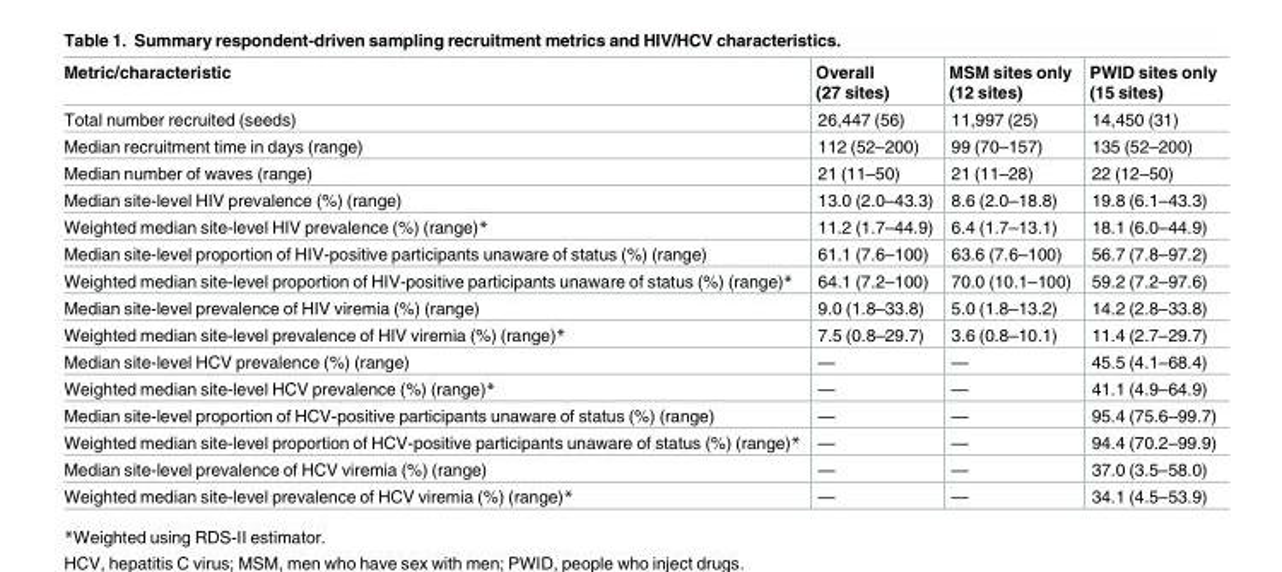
<table><thead><tr><td>Metric/characteristic</td><td>Overall (27 sites)</td><td>MSM sites only (12 sites)</td><td>PWID sites only (15 sites)</td></tr></thead><tbody><tr><td>Total number recruited (seeds)</td><td>26,447 (56)</td><td>11,997 (25)</td><td>14,450 (31)</td></tr><tr><td>Median recruitment time in days (range)</td><td>112 (52–200)</td><td>99 (70–157)</td><td>135 (52–200)</td></tr><tr><td>Median number of waves (range)</td><td>21 (11–50)</td><td>21 (11–28)</td><td>22 (12–50)</td></tr><tr><td>Median site-level HIV prevalence (%) (range)</td><td>13.0 (2.0–43.3)</td><td>8.6 (2.0–18.8)</td><td>19.8 (6.1–43.3)</td></tr><tr><td>Weighted median site-level HIV prevalence (%) (range)*</td><td>11.2 (1.7–44.9)</td><td>6.4 (1.7–13.1)</td><td>18.1 (6.0–44.9)</td></tr><tr><td>Median site-level proportion of HIV-positive participants unaware of status (%) (range)</td><td>61.1 (7.6–100)</td><td>63.6 (7.6–100)</td><td>56.7 (7.8–97.2)</td></tr><tr><td>Weighted median site-level proportion of HIV-positive participants unaware of status (%) (range)*</td><td>64.1 (7.2–100)</td><td>70.0 (10.1–100)</td><td>59.2 (7.2–97.6)</td></tr><tr><td>Median site-level prevalence of HIV viremia (%) (range)</td><td>9.0 (1.8–33.8)</td><td>5.0 (1.8–13.2)</td><td>14.2 (2.8–33.8)</td></tr><tr><td>Weighted median site-level prevalence of HIV viremia (%) (range)*</td><td>7.5 (0.8–29.7)</td><td>3.6 (0.8–10.1)</td><td>11.4 (2.7–29.7)</td></tr><tr><td>Median site-level HCV prevalence (%) (range)</td><td>—</td><td>—</td><td>45.5 (4.1–68.4)</td></tr><tr><td>Weighted median site-level HCV prevalence (%) (range)*</td><td>—</td><td>—</td><td>41.1 (4.9–64.9)</td></tr><tr><td>Median site-level proportion of HCV-positive participants unaware of status (%) (range)</td><td>—</td><td>—</td><td>95.4 (75.6–99.7)</td></tr><tr><td>Weighted median site-level proportion of HCV-positive participants unaware of status (%) (range)*</td><td>—</td><td>—</td><td>94.4 (70.2–99.9)</td></tr><tr><td>Median site-level prevalence of HCV viremia (%) (range)</td><td>—</td><td>—</td><td>37.0 (3.5–58.0)</td></tr><tr><td>Weighted median site-level prevalence of HCV viremia (%) (range)*</td><td>—</td><td>—</td><td>34.1 (4.5–53.9)</td></tr></tbody></table>